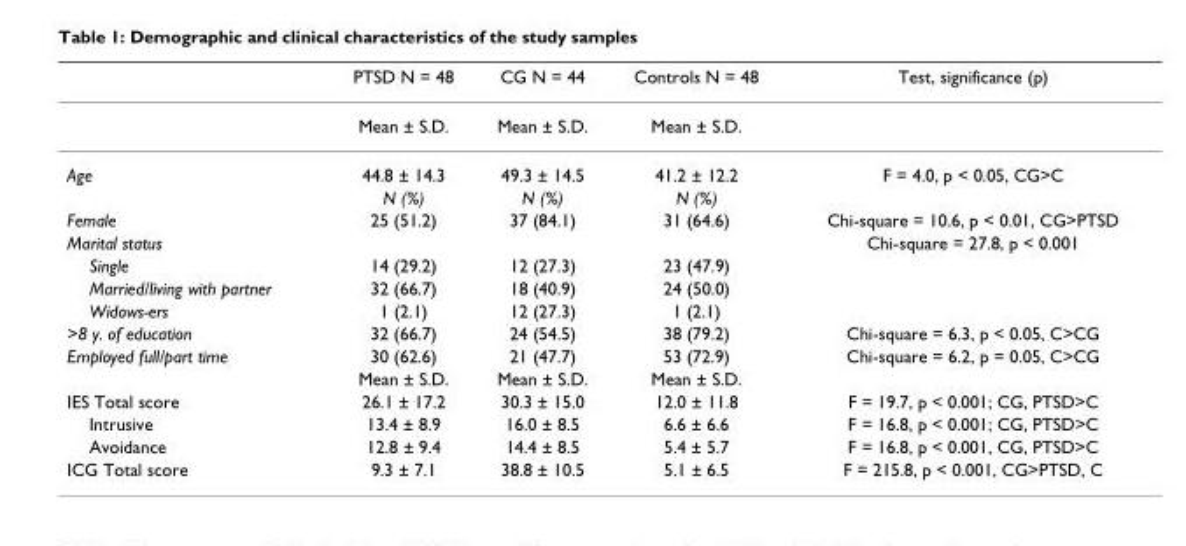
<table><thead><tr><td></td><td>PTSD N = 48</td><td>CG N = 44</td><td>Controls N = 48</td><td>Test, significance (p)</td></tr></thead><tbody><tr><td></td><td>Mean ± S.D.</td><td>Mean ± S.D.</td><td>Mean ± S.D.</td><td></td></tr><tr><td rowspan="2">Age</td><td>44.8 ± 14.3</td><td>49.3 ± 14.5</td><td>41.2 ± 12.2</td><td>F = 4.0, p &lt; 0.05, CG&gt;C</td></tr><tr><td>N (%)</td><td>N (%)</td><td>N (%)</td><td></td></tr><tr><td>Female</td><td>25 (51.2)</td><td>37 (84.1)</td><td>31 (64.6)</td><td>Chi-square = 10.6, p &lt; 0.01, CG&gt;PTSD</td></tr><tr><td>Marital status</td><td></td><td></td><td></td><td>Chi-square = 27.8, p &lt; 0.001</td></tr><tr><td>Single</td><td>14 (29.2)</td><td>12 (27.3)</td><td>23 (47.9)</td><td></td></tr><tr><td>Married/living with partner</td><td>32 (66.7)</td><td>18 (40.9)</td><td>24 (50.0)</td><td></td></tr><tr><td>Widows-ers</td><td>1 (2.1)</td><td>12 (27.3)</td><td>1 (2.1)</td><td></td></tr><tr><td>&gt;8 y. of education</td><td>32 (66.7)</td><td>24 (54.5)</td><td>38 (79.2)</td><td>Chi-square = 6.3, p &lt; 0.05, C&gt;CG</td></tr><tr><td rowspan="2">Employed full/part time</td><td>30 (62.6)</td><td>21 (47.7)</td><td>53 (72.9)</td><td>Chi-square = 6.2, p = 0.05, C&gt;CG</td></tr><tr><td>Mean ± S.D.</td><td>Mean ± S.D.</td><td>Mean ± S.D.</td><td></td></tr><tr><td>IES Total score</td><td>26.1 ± 17.2</td><td>30.3 ± 15.0</td><td>12.0 ± 11.8</td><td>F = 19.7, p &lt; 0.001; CG, PTSD&gt;C</td></tr><tr><td>Intrusive</td><td>13.4 ± 8.9</td><td>16.0 ± 8.5</td><td>6.6 ± 6.6</td><td>F = 16.8, p &lt; 0.001; CG, PTSD&gt;C</td></tr><tr><td>Avoidance</td><td>12.8 ± 9.4</td><td>14.4 ± 8.5</td><td>5.4 ± 5.7</td><td>F = 16.8, p &lt; 0.001, CG, PTSD&gt;C</td></tr><tr><td>ICG Total score</td><td>9.3 ± 7.1</td><td>38.8 ± 10.5</td><td>5.1 ± 6.5</td><td>F = 215.8, p &lt; 0.001, CG&gt;PTSD, C</td></tr></tbody></table>